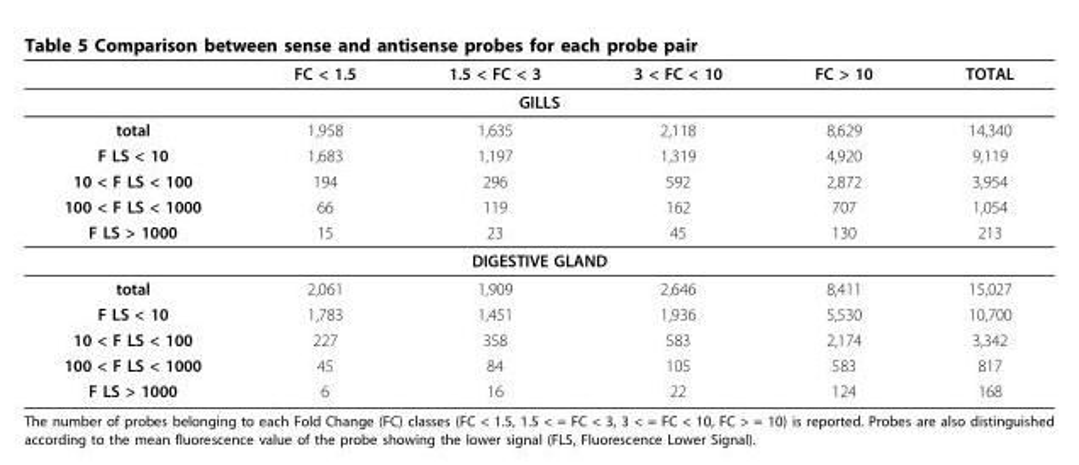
<table><thead><tr><td></td><td>FC &lt; 1.5</td><td>1.5 &lt; FC &lt; 3</td><td>3 &lt; FC &lt; 10</td><td>FC &gt; 10</td><td>TOTAL</td></tr></thead><tbody><tr><td colspan="6">GILLS</td></tr><tr><td>total</td><td>1,958</td><td>1,635</td><td>2,118</td><td>8,629</td><td>14,340</td></tr><tr><td>F LS &lt; 10</td><td>1,683</td><td>1,197</td><td>1,319</td><td>4,920</td><td>9,119</td></tr><tr><td>10 &lt; F LS &lt; 100</td><td>194</td><td>296</td><td>592</td><td>2,872</td><td>3,954</td></tr><tr><td>100 &lt; F LS &lt; 1000</td><td>66</td><td>119</td><td>162</td><td>707</td><td>1,054</td></tr><tr><td>F LS &gt; 1000</td><td>15</td><td>23</td><td>45</td><td>130</td><td>213</td></tr><tr><td colspan="6">DIGESTIVE GLAND</td></tr><tr><td>total</td><td>2,061</td><td>1,909</td><td>2,646</td><td>8,411</td><td>15,027</td></tr><tr><td>F LS &lt; 10</td><td>1,783</td><td>1,451</td><td>1,936</td><td>5,530</td><td>10,700</td></tr><tr><td>10 &lt; F LS &lt; 100</td><td>227</td><td>358</td><td>583</td><td>2,174</td><td>3,342</td></tr><tr><td>100 &lt; F LS &lt; 1000</td><td>45</td><td>84</td><td>105</td><td>583</td><td>817</td></tr><tr><td>F LS &gt; 1000</td><td>6</td><td>16</td><td>22</td><td>124</td><td>168</td></tr></tbody></table>